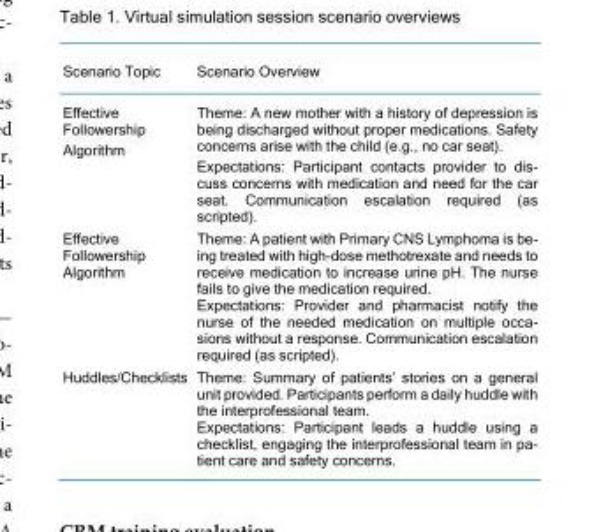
<table><thead><tr><td>Scenario Topic</td><td>Scenario Overview</td></tr></thead><tbody><tr><td>Effective Followership Algorithm</td><td>Theme: A new mother with a history of depression is being discharged without proper medications. Safety concerns arise with the child (e.g., no car seat). Expectations: Participant contacts provider to dis- cuss concerns with medication and need for the car seat. Communication escalation required (as scripted).</td></tr><tr><td>Effective Followership Algorithm</td><td>Theme: A patient with Primary CNS Lymphoma is be- ing treated with high-dose methotrexate and needs to receive medication to increase urine pH. The nurse fails to give the medication required. Expectations: Provider and pharmacist notify the nurse of the needed medication on multiple occa- sions without a response. Communication escalation required (as scripted).</td></tr><tr><td>Huddles/Checklists</td><td>Theme: Summary of patients’ stories on a general unit provided. Participants perform a daily huddle with the interprofessional team. Expectations: Participant leads a huddle using a checklist, engaging the interprofessional team in pa- tient care and safety concerns.</td></tr></tbody></table>